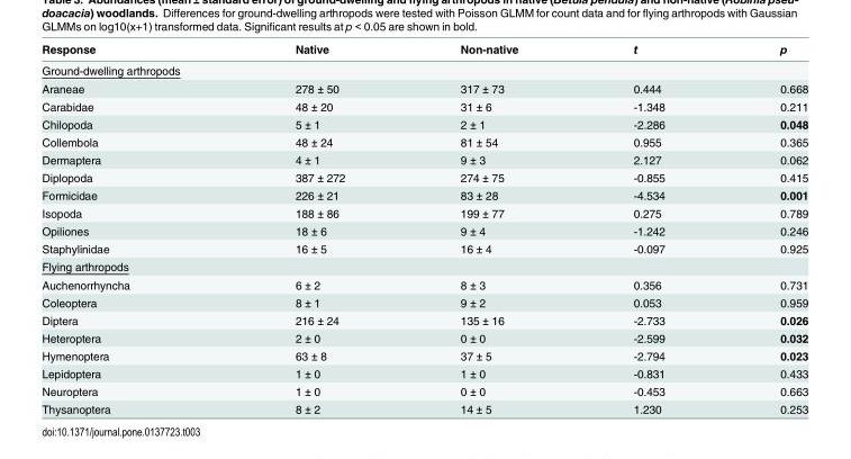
<table><thead><tr><td>Response</td><td>Native</td><td>Non-native</td><td>t</td><td>p</td></tr></thead><tbody><tr><td colspan="5">Ground-dwelling arthropods</td></tr><tr><td>Araneae</td><td>278 ± 50</td><td>317 ± 73</td><td>0.444</td><td>0.668</td></tr><tr><td>Carabidae</td><td>48 ± 20</td><td>31 ± 6</td><td>-1.348</td><td>0.211</td></tr><tr><td>Chilopoda</td><td>5 ± 1</td><td>2 ± 1</td><td>-2.286</td><td>0.048</td></tr><tr><td>Collembola</td><td>48 ± 24</td><td>81 ± 54</td><td>0.955</td><td>0.365</td></tr><tr><td>Dermaptera</td><td>4 ± 1</td><td>9 ± 3</td><td>2.127</td><td>0.062</td></tr><tr><td>Diplopoda</td><td>387 ± 272</td><td>274 ± 75</td><td>-0.855</td><td>0.415</td></tr><tr><td>Formicidae</td><td>226 ± 21</td><td>83 ± 28</td><td>-4.534</td><td>0.001</td></tr><tr><td>Isopoda</td><td>188 ± 86</td><td>199 ± 77</td><td>0.275</td><td>0.789</td></tr><tr><td>Opiliones</td><td>18 ± 6</td><td>9 ± 4</td><td>-1.242</td><td>0.246</td></tr><tr><td>Staphylinidae</td><td>16 ± 5</td><td>16 ± 4</td><td>-0.097</td><td>0.925</td></tr><tr><td colspan="5">Flying arthropods</td></tr><tr><td>Auchenorrhyncha</td><td>6 ± 2</td><td>8 ± 3</td><td>0.356</td><td>0.731</td></tr><tr><td>Coleoptera</td><td>8 ± 1</td><td>9 ± 2</td><td>0.053</td><td>0.959</td></tr><tr><td>Diptera</td><td>216 ± 24</td><td>135 ± 16</td><td>-2.733</td><td>0.026</td></tr><tr><td>Heteroptera</td><td>2 ± 0</td><td>0 ± 0</td><td>-2.599</td><td>0.032</td></tr><tr><td>Hymenoptera</td><td>63 ± 8</td><td>37 ± 5</td><td>-2.794</td><td>0.023</td></tr><tr><td>Lepidoptera</td><td>1 ± 0</td><td>1 ± 0</td><td>-0.831</td><td>0.433</td></tr><tr><td>Neuroptera</td><td>1 ± 0</td><td>0 ± 0</td><td>-0.453</td><td>0.663</td></tr><tr><td>Thysanoptera</td><td>8 ± 2</td><td>14 ± 5</td><td>1.230</td><td>0.253</td></tr></tbody></table>